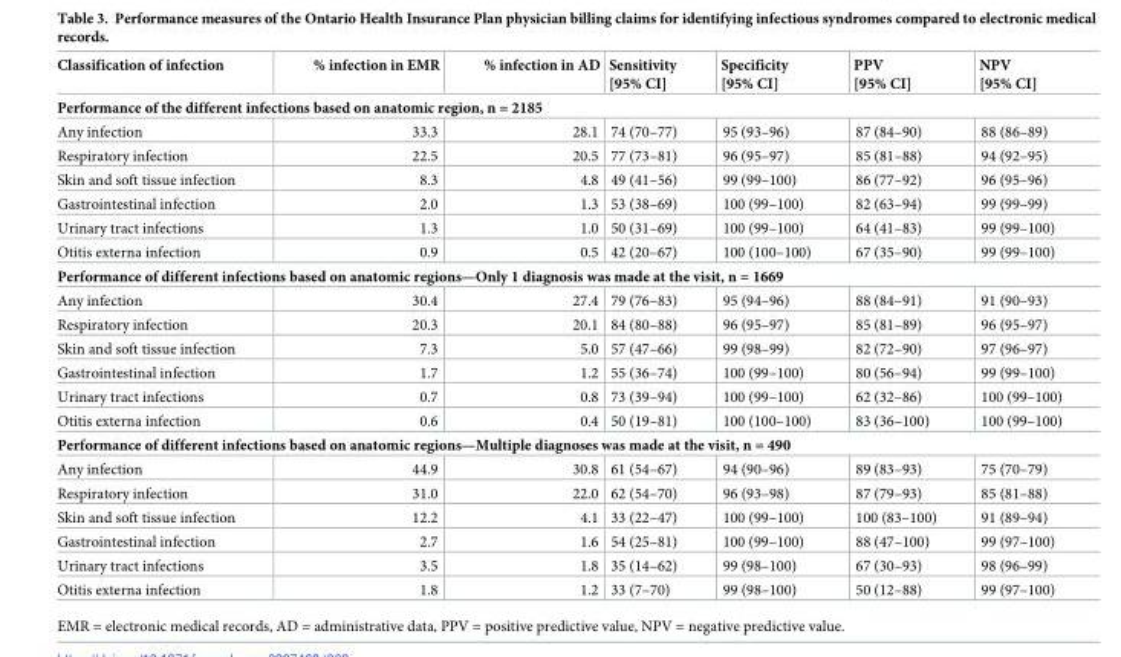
<table><thead><tr><td>Classification of infection</td><td>% infection in EMR</td><td>% infection in AD</td><td>Sensitivity [95% CI]</td><td>Specificity [95% CI]</td><td>PPV [95% CI]</td><td>NPV [95% CI]</td></tr></thead><tbody><tr><td colspan="7">Performance of the different infections based on anatomic region, n = 2185</td></tr><tr><td>Any infection</td><td>33.3</td><td>28.1</td><td>74 (70–77)</td><td>95 (93–96)</td><td>87 (84–90)</td><td>88 (86–89)</td></tr><tr><td>Respiratory infection</td><td>22.5</td><td>20.5</td><td>77 (73–81)</td><td>96 (95–97)</td><td>85 (81–88)</td><td>94 (92–95)</td></tr><tr><td>Skin and soft tissue infection</td><td>8.3</td><td>4.8</td><td>49 (41–56)</td><td>99 (99–100)</td><td>86 (77–92)</td><td>96 (95–96)</td></tr><tr><td>Gastrointestinal infection</td><td>2.0</td><td>1.3</td><td>53 (38–69)</td><td>100 (99–100)</td><td>82 (63–94)</td><td>99 (99–99)</td></tr><tr><td>Urinary tract infections</td><td>1.3</td><td>1.0</td><td>50 (31–69)</td><td>100 (99–100)</td><td>64 (41–83)</td><td>99 (99–100)</td></tr><tr><td>Otitis externa infection</td><td>0.9</td><td>0.5</td><td>42 (20–67)</td><td>100 (100–100)</td><td>67 (35–90)</td><td>99 (99–100)</td></tr><tr><td colspan="7">Performance of different infections based on anatomic regions—Only 1 diagnosis was made at the visit, n = 1669</td></tr><tr><td>Any infection</td><td>30.4</td><td>27.4</td><td>79 (76–83)</td><td>95 (94–96)</td><td>88 (84–91)</td><td>91 (90–93)</td></tr><tr><td>Respiratory infection</td><td>20.3</td><td>20.1</td><td>84 (80–88)</td><td>96 (95–97)</td><td>85 (81–89)</td><td>96 (95–97)</td></tr><tr><td>Skin and soft tissue infection</td><td>7.3</td><td>5.0</td><td>57 (47–66)</td><td>99 (98–99)</td><td>82 (72–90)</td><td>97 (96–97)</td></tr><tr><td>Gastrointestinal infection</td><td>1.7</td><td>1.2</td><td>55 (36–74)</td><td>100 (99–100)</td><td>80 (56–94)</td><td>99 (99–100)</td></tr><tr><td>Urinary tract infections</td><td>0.7</td><td>0.8</td><td>73 (39–94)</td><td>100 (99–100)</td><td>62 (32–86)</td><td>100 (99–100)</td></tr><tr><td>Otitis externa infection</td><td>0.6</td><td>0.4</td><td>50 (19–81)</td><td>100 (100–100)</td><td>83 (36–100)</td><td>100 (99–100)</td></tr><tr><td colspan="7">Performance of different infections based on anatomic regions—Multiple diagnoses was made at the visit, n = 490</td></tr><tr><td>Any infection</td><td>44.9</td><td>30.8</td><td>61 (54–67)</td><td>94 (90–96)</td><td>89 (83–93)</td><td>75 (70–79)</td></tr><tr><td>Respiratory infection</td><td>31.0</td><td>22.0</td><td>62 (54–70)</td><td>96 (93–98)</td><td>87 (79–93)</td><td>85 (81–88)</td></tr><tr><td>Skin and soft tissue infection</td><td>12.2</td><td>4.1</td><td>33 (22–47)</td><td>100 (99–100)</td><td>100 (83–100)</td><td>91 (89–94)</td></tr><tr><td>Gastrointestinal infection</td><td>2.7</td><td>1.6</td><td>54 (25–81)</td><td>100 (99–100)</td><td>88 (47–100)</td><td>99 (97–100)</td></tr><tr><td>Urinary tract infections</td><td>3.5</td><td>1.8</td><td>35 (14–62)</td><td>99 (98–100)</td><td>67 (30–93)</td><td>98 (96–99)</td></tr><tr><td>Otitis externa infection</td><td>1.8</td><td>1.2</td><td>33 (7–70)</td><td>99 (98–100)</td><td>50 (12–88)</td><td>99 (97–100)</td></tr></tbody></table>